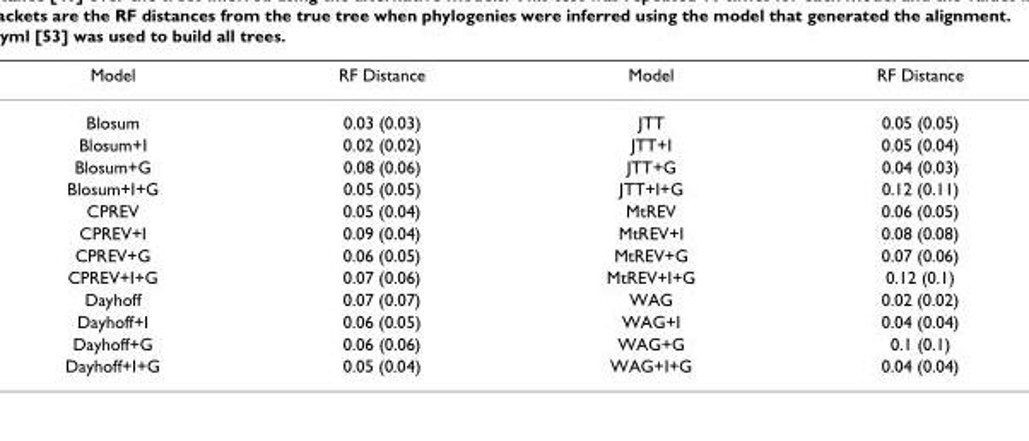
<table><thead><tr><td>Model</td><td>RF Distance</td><td>Model</td><td>RF Distance</td></tr></thead><tbody><tr><td>Blosum</td><td>0.03 (0.03)</td><td>JTT</td><td>0.05 (0.05)</td></tr><tr><td>Blosum+I</td><td>0.02 (0.02)</td><td>JTT+I</td><td>0.05 (0.04)</td></tr><tr><td>Blosum+G</td><td>0.08 (0.06)</td><td>JTT+G</td><td>0.04 (0.03)</td></tr><tr><td>Blosum+I+G</td><td>0.05 (0.05)</td><td>JTT+I+G</td><td>0.12 (0.11)</td></tr><tr><td>CPREV</td><td>0.05 (0.04)</td><td>MtREV</td><td>0.06 (0.05)</td></tr><tr><td>CPREV+I</td><td>0.09 (0.04)</td><td>MtREV+I</td><td>0.08 (0.08)</td></tr><tr><td>CPREV+G</td><td>0.06 (0.05)</td><td>MtREV+G</td><td>0.07 (0.06)</td></tr><tr><td>CPREV+I+G</td><td>0.07 (0.06)</td><td>MtREV+I+G</td><td>0.12 (0.1)</td></tr><tr><td>Dayhoff</td><td>0.07 (0.07)</td><td>WAG</td><td>0.02 (0.02)</td></tr><tr><td>Dayhoff+I</td><td>0.06 (0.05)</td><td>WAG+I</td><td>0.04 (0.04)</td></tr><tr><td>Dayhoff+G</td><td>0.06 (0.06)</td><td>WAG+G</td><td>0.1 (0.1)</td></tr><tr><td>Dayhoff+I+G</td><td>0.05 (0.04)</td><td>WAG+I+G</td><td>0.04 (0.04)</td></tr></tbody></table>